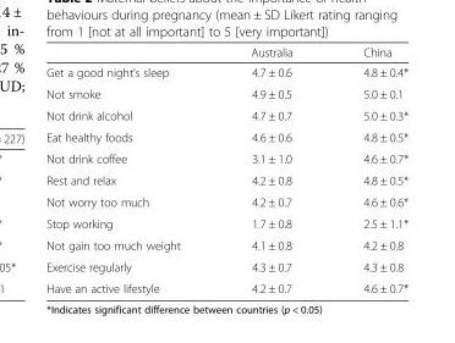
<table><thead><tr><td></td><td>Australia</td><td>China</td></tr></thead><tbody><tr><td>Get a good night’s sleep</td><td>4.7 ± 0.6</td><td>4.8 ± 0.4*</td></tr><tr><td>Not smoke</td><td>4.9 ± 0.5</td><td>5.0 ± 0.1</td></tr><tr><td>Not drink alcohol</td><td>4.7 ± 0.7</td><td>5.0 ± 0.3*</td></tr><tr><td>Eat healthy foods</td><td>4.6 ± 0.6</td><td>4.8 ± 0.5*</td></tr><tr><td>Not drink coffee</td><td>3.1 ± 1.0</td><td>4.6 ± 0.7*</td></tr><tr><td>Rest and relax</td><td>4.2 ± 0.8</td><td>4.8 ± 0.5*</td></tr><tr><td>Not worry too much</td><td>4.2 ± 0.7</td><td>4.6 ± 0.6*</td></tr><tr><td>Stop working</td><td>1.7 ± 0.8</td><td>2.5 ± 1.1*</td></tr><tr><td>Not gain too much weight</td><td>4.1 ± 0.8</td><td>4.2 ± 0.8</td></tr><tr><td>Exercise regularly</td><td>4.3 ± 0.7</td><td>4.3 ± 0.8</td></tr><tr><td>Have an active lifestyle</td><td>4.2 ± 0.7</td><td>4.6 ± 0.7*</td></tr></tbody></table>